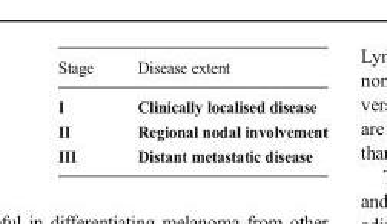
<table><thead><tr><td>Stage</td><td>Disease extent</td></tr></thead><tbody><tr><td>I</td><td>Clinically localised disease</td></tr><tr><td>II</td><td>Regional nodal involvement</td></tr><tr><td>III</td><td>Distant metastatic disease</td></tr></tbody></table>